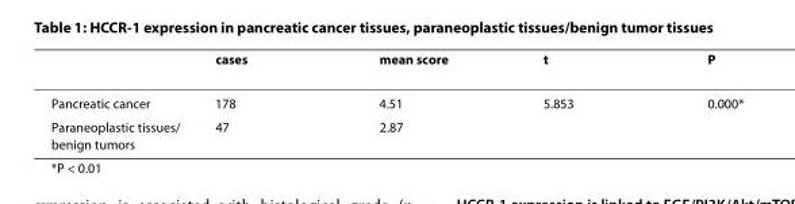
<table><thead><tr><td></td><td>cases</td><td>mean score</td><td>t</td><td>P</td></tr></thead><tbody><tr><td>Pancreatic cancer</td><td>178</td><td>4.51</td><td>5.853</td><td>0.000*</td></tr><tr><td>Paraneoplastic tissues/ benign tumors</td><td>47</td><td>2.87</td><td></td><td></td></tr></tbody></table>